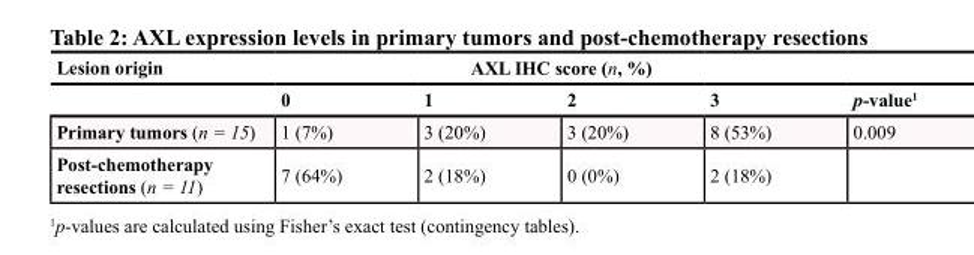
<table><thead><tr><td rowspan="2">Lesion origin</td><td colspan="5">AXL IHC score (n, %)</td></tr><tr><td>0</td><td>1</td><td>2</td><td>3</td><td>p-value<sup>1</sup></td></tr></thead><tbody><tr><td>Primary tumors (n = 15)</td><td>1 (7%)</td><td>3 (20%)</td><td>3 (20%)</td><td>8 (53%)</td><td>0.009</td></tr><tr><td>Post-chemotherapy resections (n = 11)</td><td>7 (64%)</td><td>2 (18%)</td><td>0 (0%)</td><td>2 (18%)</td><td></td></tr></tbody></table>